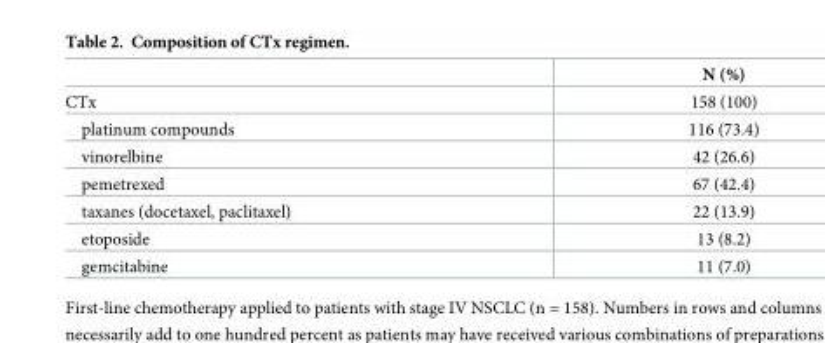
<table><thead><tr><td></td><td>N (%)</td></tr></thead><tbody><tr><td>CTx</td><td>158 (100)</td></tr><tr><td>platinum compounds</td><td>116 (73.4)</td></tr><tr><td>vinorelbine</td><td>42 (26.6)</td></tr><tr><td>pemetrexed</td><td>67 (42.4)</td></tr><tr><td>taxanes (docetaxel, paclitaxel)</td><td>22 (13.9)</td></tr><tr><td>etoposide</td><td>13 (8.2)</td></tr><tr><td>gemcitabine</td><td>11 (7.0)</td></tr></tbody></table>